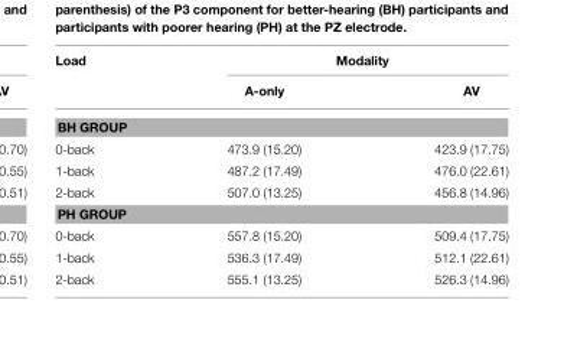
<table><thead><tr><td rowspan="2">Load</td><td colspan="2">Modality</td></tr><tr><td>A-only</td><td>AV</td></tr></thead><tbody><tr><td colspan="3">BH GROUP</td></tr><tr><td>0-back</td><td>473.9 (15.20)</td><td>423.9 (17.75)</td></tr><tr><td>1-back</td><td>487.2 (17.49)</td><td>476.0 (22.61)</td></tr><tr><td>2-back</td><td>507.0 (13.25)</td><td>456.8 (14.96)</td></tr><tr><td colspan="3">PH GROUP</td></tr><tr><td>0-back</td><td>557.8 (15.20)</td><td>509.4 (17.75)</td></tr><tr><td>1-back</td><td>536.3 (17.49)</td><td>512.1 (22.61)</td></tr><tr><td>2-back</td><td>555.1 (13.25)</td><td>526.3 (14.96)</td></tr></tbody></table>